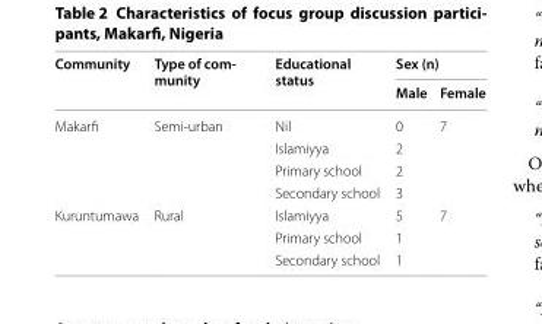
<table><thead><tr><td rowspan="2">Community</td><td rowspan="2">Type of com- munity</td><td rowspan="2">Educational status</td><td colspan="2">Sex (n)</td></tr><tr><td>Male</td><td>Female</td></tr></thead><tbody><tr><td rowspan="4">Makarfi</td><td rowspan="4">Semi-urban</td><td>Nil</td><td>0</td><td>7</td></tr><tr><td>Islamiyya</td><td>2</td><td></td></tr><tr><td>Primary school</td><td>2</td><td></td></tr><tr><td>Secondary school</td><td>3</td><td></td></tr><tr><td rowspan="3">Kuruntumawa</td><td rowspan="3">Rural</td><td>Islamiyya</td><td>5</td><td>7</td></tr><tr><td>Primary school</td><td>1</td><td></td></tr><tr><td>Secondary school</td><td>1</td><td></td></tr></tbody></table>